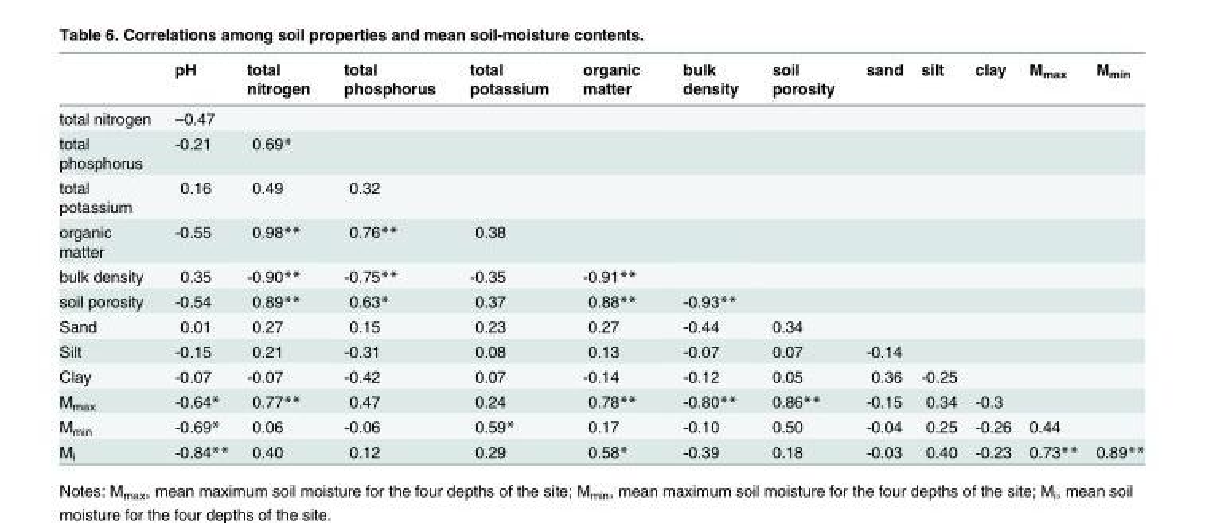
<table><thead><tr><td></td><td>pH</td><td>total nitrogen</td><td>total phosphorus</td><td>total potassium</td><td>organic matter</td><td>bulk density</td><td>soil porosity</td><td>sand</td><td>silt</td><td>clay</td><td>M<sub>max</sub></td><td>M<sub>min</sub></td></tr></thead><tbody><tr><td>total nitrogen</td><td>–0.47</td><td></td><td></td><td></td><td></td><td></td><td></td><td></td><td></td><td></td><td></td><td></td></tr><tr><td>total phosphorus</td><td>-0.21</td><td>0.69*</td><td></td><td></td><td></td><td></td><td></td><td></td><td></td><td></td><td></td><td></td></tr><tr><td>total potassium</td><td>0.16</td><td>0.49</td><td>0.32</td><td></td><td></td><td></td><td></td><td></td><td></td><td></td><td></td><td></td></tr><tr><td>organic matter</td><td>-0.55</td><td>0.98**</td><td>0.76**</td><td>0.38</td><td></td><td></td><td></td><td></td><td></td><td></td><td></td><td></td></tr><tr><td>bulk density</td><td>0.35</td><td>-0.90**</td><td>-0.75**</td><td>-0.35</td><td>-0.91**</td><td></td><td></td><td></td><td></td><td></td><td></td><td></td></tr><tr><td>soil porosity</td><td>-0.54</td><td>0.89**</td><td>0.63*</td><td>0.37</td><td>0.88**</td><td>-0.93**</td><td></td><td></td><td></td><td></td><td></td><td></td></tr><tr><td>Sand</td><td>0.01</td><td>0.27</td><td>0.15</td><td>0.23</td><td>0.27</td><td>-0.44</td><td>0.34</td><td></td><td></td><td></td><td></td><td></td></tr><tr><td>Silt</td><td>-0.15</td><td>0.21</td><td>-0.31</td><td>0.08</td><td>0.13</td><td>-0.07</td><td>0.07</td><td>-0.14</td><td></td><td></td><td></td><td></td></tr><tr><td>Clay</td><td>-0.07</td><td>-0.07</td><td>-0.42</td><td>0.07</td><td>-0.14</td><td>-0.12</td><td>0.05</td><td>0.36</td><td>-0.25</td><td></td><td></td><td></td></tr><tr><td>M<sub>max</sub></td><td>-0.64*</td><td>0.77**</td><td>0.47</td><td>0.24</td><td>0.78**</td><td>-0.80**</td><td>0.86**</td><td>-0.15</td><td>0.34</td><td>-0.3</td><td></td><td></td></tr><tr><td>M<sub>min</sub></td><td>-0.69*</td><td>0.06</td><td>-0.06</td><td>0.59*</td><td>0.17</td><td>-0.10</td><td>0.50</td><td>-0.04</td><td>0.25</td><td>-0.26</td><td>0.44</td><td></td></tr><tr><td>M<sub>i</sub></td><td>-0.84**</td><td>0.40</td><td>0.12</td><td>0.29</td><td>0.58*</td><td>-0.39</td><td>0.18</td><td>-0.03</td><td>0.40</td><td>-0.23</td><td>0.73**</td><td>0.89**</td></tr></tbody></table>